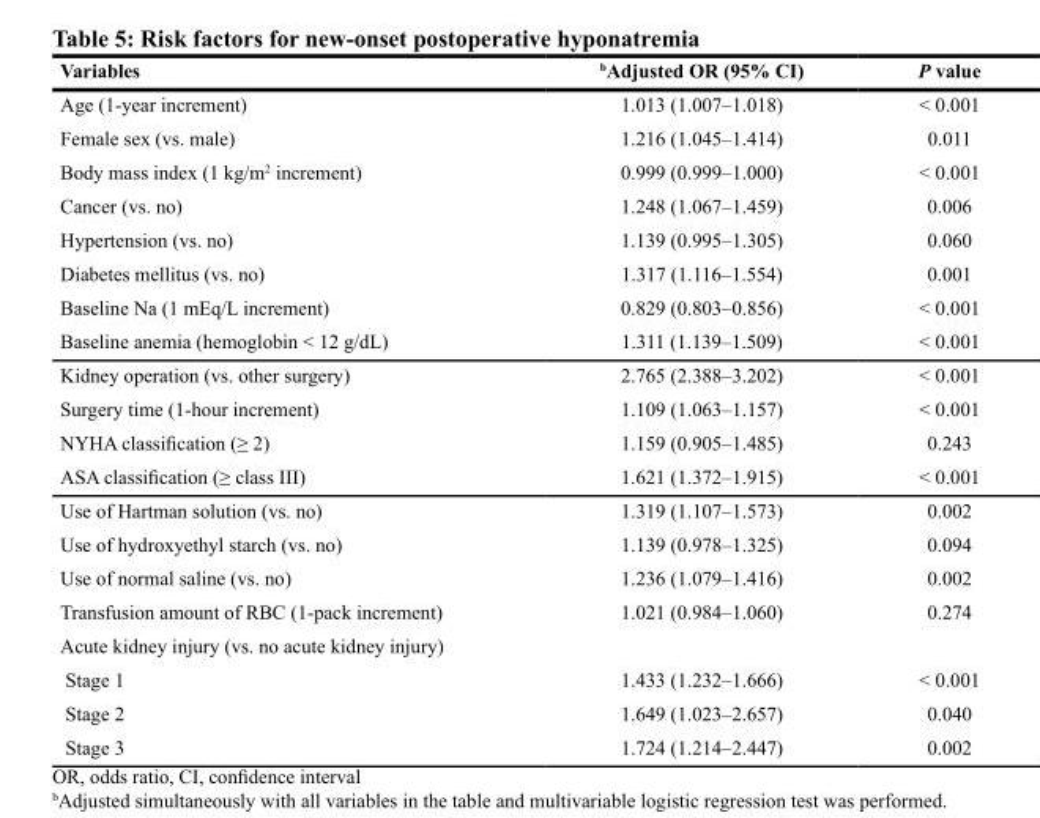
<table><thead><tr><td>Variables</td><td><sup>b</sup>Adjusted OR (95% CI)</td><td>P value</td></tr></thead><tbody><tr><td>Age (1-year increment)</td><td>1.013 (1.007–1.018)</td><td>&lt; 0.001</td></tr><tr><td>Female sex (vs. male)</td><td>1.216 (1.045–1.414)</td><td>0.011</td></tr><tr><td>Body mass index (1 kg/m<sup>2</sup> increment)</td><td>0.999 (0.999–1.000)</td><td>&lt; 0.001</td></tr><tr><td>Cancer (vs. no)</td><td>1.248 (1.067–1.459)</td><td>0.006</td></tr><tr><td>Hypertension (vs. no)</td><td>1.139 (0.995–1.305)</td><td>0.060</td></tr><tr><td>Diabetes mellitus (vs. no)</td><td>1.317 (1.116–1.554)</td><td>0.001</td></tr><tr><td>Baseline Na (1 mEq/L increment)</td><td>0.829 (0.803–0.856)</td><td>&lt; 0.001</td></tr><tr><td>Baseline anemia (hemoglobin &lt; 12 g/dL)</td><td>1.311 (1.139–1.509)</td><td>&lt; 0.001</td></tr><tr><td>Kidney operation (vs. other surgery)</td><td>2.765 (2.388–3.202)</td><td>&lt; 0.001</td></tr><tr><td>Surgery time (1-hour increment)</td><td>1.109 (1.063–1.157)</td><td>&lt; 0.001</td></tr><tr><td>NYHA classification (≥ 2)</td><td>1.159 (0.905–1.485)</td><td>0.243</td></tr><tr><td>ASA classification (≥ class III)</td><td>1.621 (1.372–1.915)</td><td>&lt; 0.001</td></tr><tr><td>Use of Hartman solution (vs. no)</td><td>1.319 (1.107–1.573)</td><td>0.002</td></tr><tr><td>Use of hydroxyethyl starch (vs. no)</td><td>1.139 (0.978–1.325)</td><td>0.094</td></tr><tr><td>Use of normal saline (vs. no)</td><td>1.236 (1.079–1.416)</td><td>0.002</td></tr><tr><td>Transfusion amount of RBC (1-pack increment)</td><td>1.021 (0.984–1.060)</td><td>0.274</td></tr><tr><td colspan="3">Acute kidney injury (vs. no acute kidney injury)</td></tr><tr><td>Stage 1</td><td>1.433 (1.232–1.666)</td><td>&lt; 0.001</td></tr><tr><td>Stage 2</td><td>1.649 (1.023–2.657)</td><td>0.040</td></tr><tr><td>Stage 3</td><td>1.724 (1.214–2.447)</td><td>0.002</td></tr></tbody></table>